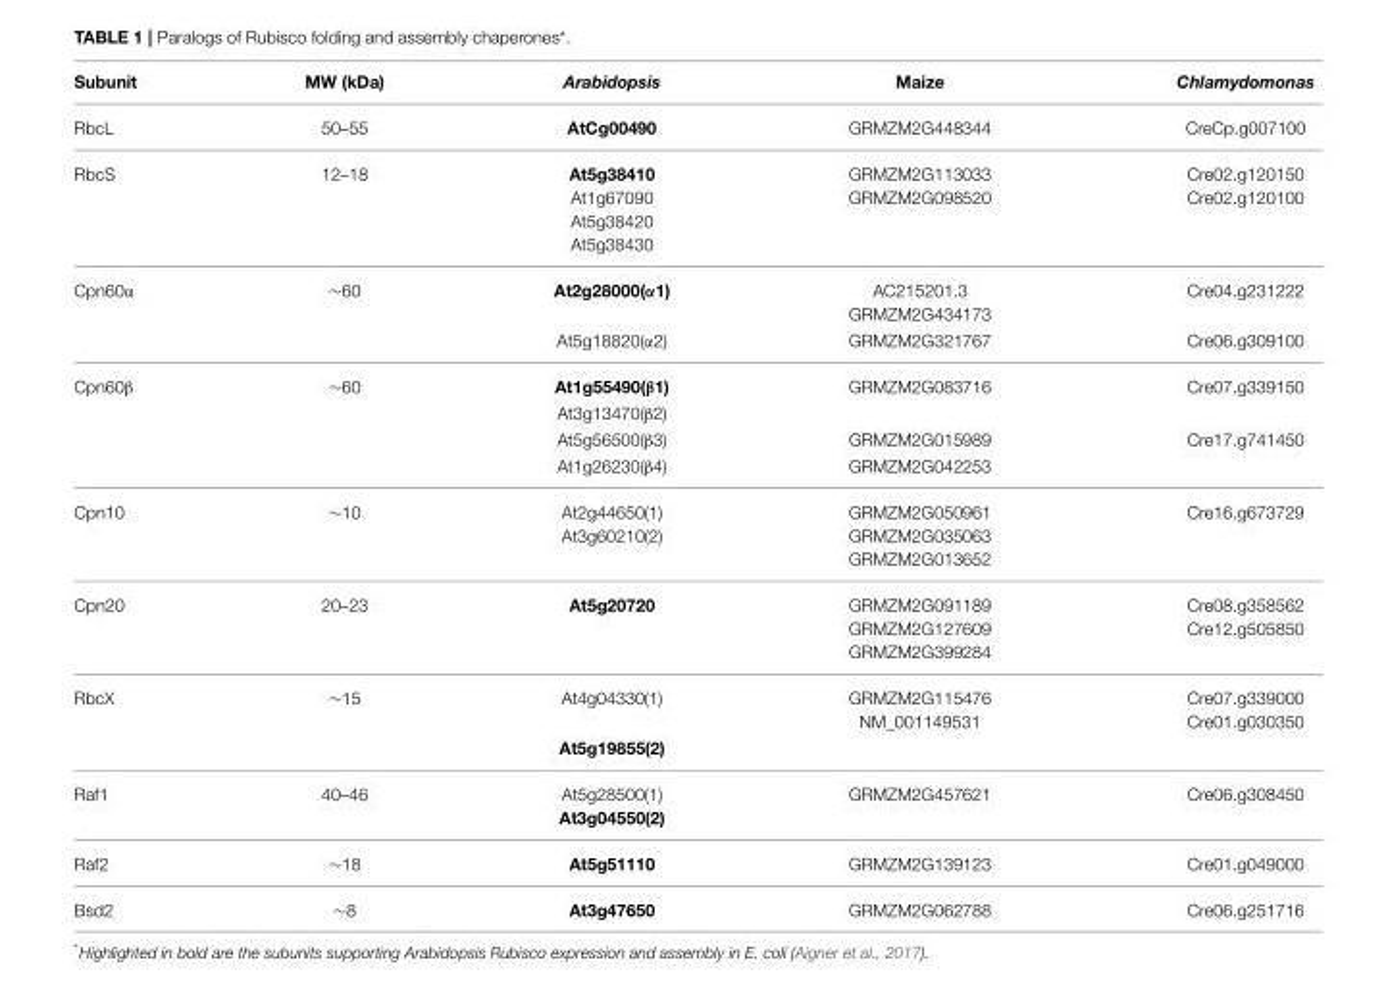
<table><thead><tr><td>Subunit</td><td>MW (kDa)</td><td>Arabidopsis</td><td>Maize</td><td>Chlamydomonas</td></tr></thead><tbody><tr><td>RbcL</td><td>50–55</td><td>AtCg00490</td><td>GRMZM2G448344</td><td>CreCp.g007100</td></tr><tr><td>RbcS</td><td>12–18</td><td>At5g38410 At1g67090 At5g38420 At5g38430</td><td>GRMZM2G113033 GRMZM2G098520</td><td>Cre02.g120150 Cre02.g120100</td></tr><tr><td rowspan="2">Cpn60α</td><td>∼60</td><td>At2g28000(α1)</td><td>AC215201.3 GRMZM2G434173</td><td>Cre04.g231222</td></tr><tr><td></td><td>At5g18820(α2)</td><td>GRMZM2G321767</td><td>Cre06.g309100</td></tr><tr><td rowspan="4">Cpn60β</td><td>∼60</td><td>At1g55490(β1)</td><td>GRMZM2G083716</td><td>Cre07.g339150</td></tr><tr><td></td><td>At3g13470(β2)</td><td></td><td></td></tr><tr><td></td><td>At5g56500(β3)</td><td>GRMZM2G015989</td><td>Cre17.g741450</td></tr><tr><td></td><td>At1g26230(β4)</td><td>GRMZM2G042253</td><td></td></tr><tr><td>Cpn10</td><td>∼10</td><td>At2g44650(1) At3g60210(2)</td><td>GRMZM2G050961 GRMZM2G035063 GRMZM2G013652</td><td>Cre16.g673729</td></tr><tr><td>Cpn20</td><td>20–23</td><td>At5g20720</td><td>GRMZM2G091189 GRMZM2G127609 GRMZM2G399284</td><td>Cre08.g358562 Cre12.g505850</td></tr><tr><td rowspan="2">RbcX</td><td>∼15</td><td>At4g04330(1)</td><td>GRMZM2G115476 NM_001149531</td><td>Cre07.g339000 Cre01.g030350</td></tr><tr><td></td><td>At5g19855(2)</td><td></td><td></td></tr><tr><td>Raf1</td><td>40–46</td><td>At5g28500(1) At3g04550(2)</td><td>GRMZM2G457621</td><td>Cre06.g308450</td></tr><tr><td>Raf2</td><td>∼18</td><td>At5g51110</td><td>GRMZM2G139123</td><td>Cre01.g049000</td></tr><tr><td>Bsd2</td><td>∼8</td><td>At3g47650</td><td>GRMZM2G062788</td><td>Cre06.g251716</td></tr></tbody></table>